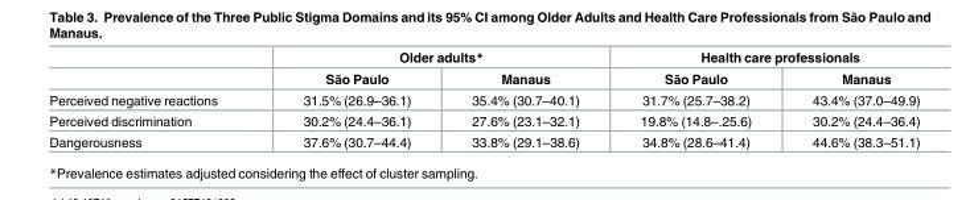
<table><thead><tr><td rowspan="2"></td><td colspan="2">Older adults*</td><td colspan="2">Health care professionals</td></tr><tr><td>São Paulo</td><td>Manaus</td><td>São Paulo</td><td>Manaus</td></tr></thead><tbody><tr><td>Perceived negative reactions</td><td>31.5% (26.9–36.1)</td><td>35.4% (30.7–40.1)</td><td>31.7% (25.7–38.2)</td><td>43.4% (37.0–49.9)</td></tr><tr><td>Perceived discrimination</td><td>30.2% (24.4–36.1)</td><td>27.6% (23.1–32.1)</td><td>19.8% (14.8–.25.6)</td><td>30.2% (24.4–36.4)</td></tr><tr><td>Dangerousness</td><td>37.6% (30.7–44.4)</td><td>33.8% (29.1–38.6)</td><td>34.8% (28.6–41.4)</td><td>44.6% (38.3–51.1)</td></tr></tbody></table>